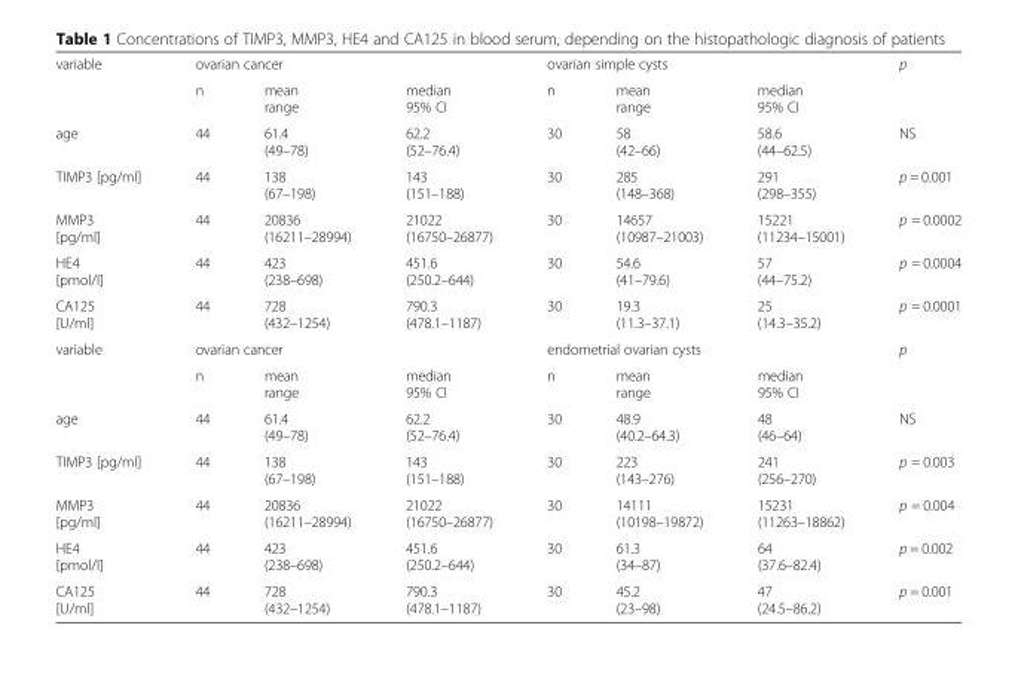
<table><tbody><tr><td rowspan="2">variable</td><td colspan="3">ovarian cancer</td><td colspan="3">ovarian simple cysts</td><td rowspan="2">p</td></tr><tr><td>n</td><td>mean range</td><td>median 95% CI</td><td>n</td><td>mean range</td><td>median 95% CI</td></tr><tr><td>age</td><td>44</td><td>61.4 (49–78)</td><td>62.2 (52–76.4)</td><td>30</td><td>58 (42–66)</td><td>58.6 (44–62.5)</td><td>NS</td></tr><tr><td>TIMP3 [pg/ml]</td><td>44</td><td>138 (67–198)</td><td>143 (151–188)</td><td>30</td><td>285 (148–368)</td><td>291 (298–355)</td><td>p = 0.001</td></tr><tr><td>MMP3 [pg/ml]</td><td>44</td><td>20836 (16211–28994)</td><td>21022 (16750–26877)</td><td>30</td><td>14657 (10987–21003)</td><td>15221 (11234–15001)</td><td>p = 0.0002</td></tr><tr><td>HE4 [pmol/l]</td><td>44</td><td>423 (238–698)</td><td>451.6 (250.2–644)</td><td>30</td><td>54.6 (41–79.6)</td><td>57 (44–75.2)</td><td>p = 0.0004</td></tr><tr><td>CA125 [U/ml]</td><td>44</td><td>728 (432–1254)</td><td>790.3 (478.1–1187)</td><td>30</td><td>19.3 (11.3–37.1)</td><td>25 (14.3–35.2)</td><td>p = 0.0001</td></tr><tr><td rowspan="2">variable</td><td colspan="3">ovarian cancer</td><td colspan="3">endometrial ovarian cysts</td><td rowspan="2">p</td></tr><tr><td>n</td><td>mean range</td><td>median 95% CI</td><td>n</td><td>mean range</td><td>median 95% CI</td></tr><tr><td>age</td><td>44</td><td>61.4 (49–78)</td><td>62.2 (52–76.4)</td><td>30</td><td>48.9 (40.2–64.3)</td><td>48 (46–64)</td><td>NS</td></tr><tr><td>TIMP3 [pg/ml]</td><td>44</td><td>138 (67–198)</td><td>143 (151–188)</td><td>30</td><td>223 (143–276)</td><td>241 (256–270)</td><td>p = 0.003</td></tr><tr><td>MMP3 [pg/ml]</td><td>44</td><td>20836 (16211–28994)</td><td>21022 (16750–26877)</td><td>30</td><td>14111 (10198–19872)</td><td>15231 (11263–18862)</td><td>p = 0.004</td></tr><tr><td>HE4 [pmol/l]</td><td>44</td><td>423 (238–698)</td><td>451.6 (250.2–644)</td><td>30</td><td>61.3 (34–87)</td><td>64 (37.6–82.4)</td><td>p = 0.002</td></tr><tr><td>CA125 [U/ml]</td><td>44</td><td>728 (432–1254)</td><td>790.3 (478.1–1187)</td><td>30</td><td>45.2 (23–98)</td><td>47 (24.5–86.2)</td><td>p = 0.001</td></tr></tbody></table>